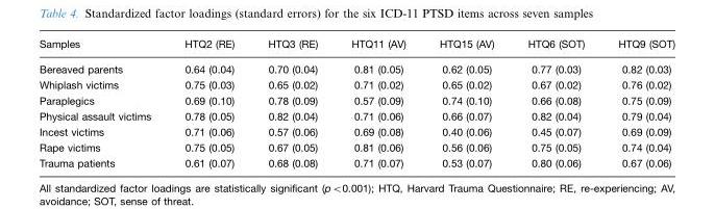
<table><thead><tr><td>Samples</td><td>HTQ2 (RE)</td><td>HTQ3 (RE)</td><td>HTQ11 (AV)</td><td>HTQ15 (AV)</td><td>HTQ6 (SOT)</td><td>HTQ9 (SOT)</td></tr></thead><tbody><tr><td>Bereaved parents</td><td>0.64 (0.04)</td><td>0.70 (0.04)</td><td>0.81 (0.05)</td><td>0.62 (0.05)</td><td>0.77 (0.03)</td><td>0.82 (0.03)</td></tr><tr><td>Whiplash victims</td><td>0.75 (0.03)</td><td>0.65 (0.02)</td><td>0.71 (0.02)</td><td>0.65 (0.02)</td><td>0.67 (0.02)</td><td>0.76 (0.02)</td></tr><tr><td>Paraplegics</td><td>0.69 (0.10)</td><td>0.78 (0.09)</td><td>0.57 (0.09)</td><td>0.74 (0.10)</td><td>0.66 (0.08)</td><td>0.75 (0.09)</td></tr><tr><td>Physical assault victims</td><td>0.78 (0.05)</td><td>0.82 (0.04)</td><td>0.71 (0.06)</td><td>0.66 (0.07)</td><td>0.82 (0.04)</td><td>0.79 (0.04)</td></tr><tr><td>Incest victims</td><td>0.71 (0.06)</td><td>0.57 (0.06)</td><td>0.69 (0.08)</td><td>0.40 (0.06)</td><td>0.45 (0.07)</td><td>0.69 (0.09)</td></tr><tr><td>Rape victims</td><td>0.75 (0.05)</td><td>0.67 (0.05)</td><td>0.81 (0.06)</td><td>0.56 (0.06)</td><td>0.75 (0.05)</td><td>0.74 (0.04)</td></tr><tr><td>Trauma patients</td><td>0.61 (0.07)</td><td>0.68 (0.08)</td><td>0.71 (0.07)</td><td>0.53 (0.07)</td><td>0.80 (0.06)</td><td>0.67 (0.06)</td></tr></tbody></table>